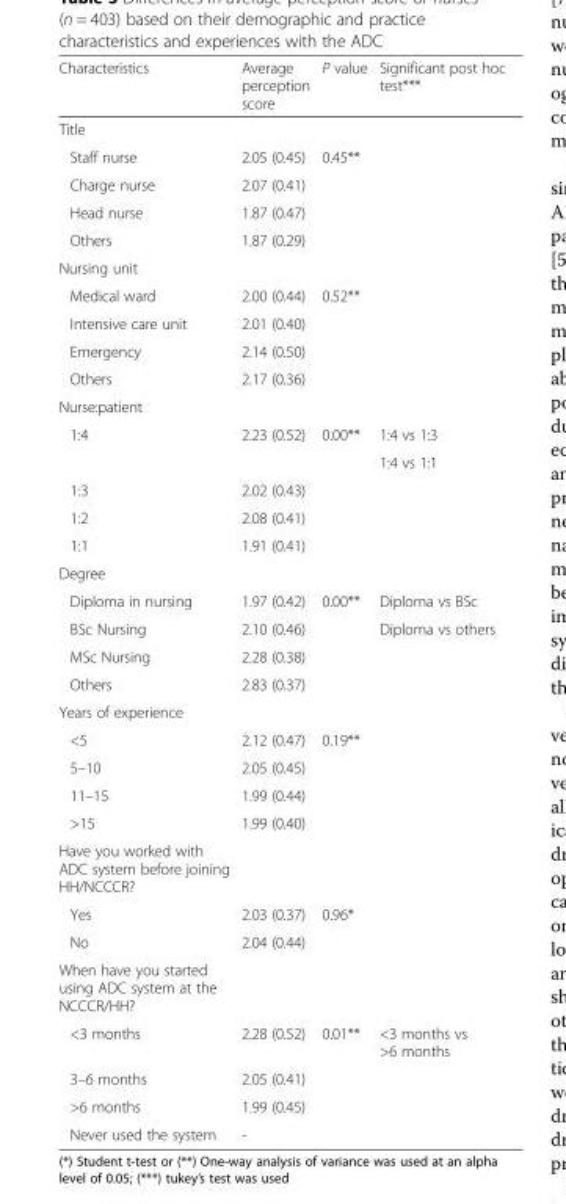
<table><thead><tr><td>Characteristics</td><td>Average perception score</td><td>P value</td><td>Significant post hoc test***</td></tr></thead><tbody><tr><td colspan="4">Title</td></tr><tr><td>Staff nurse</td><td>2.05 (0.45)</td><td>0.45**</td><td></td></tr><tr><td>Charge nurse</td><td>2.07 (0.41)</td><td></td><td></td></tr><tr><td>Head nurse</td><td>1.87 (0.47)</td><td></td><td></td></tr><tr><td>Others</td><td>1.87 (0.29)</td><td></td><td></td></tr><tr><td colspan="4">Nursing unit</td></tr><tr><td>Medical ward</td><td>2.00 (0.44)</td><td>0.52**</td><td></td></tr><tr><td>Intensive care unit</td><td>2.01 (0.40)</td><td></td><td></td></tr><tr><td>Emergency</td><td>2.14 (0.50)</td><td></td><td></td></tr><tr><td>Others</td><td>2.17 (0.36)</td><td></td><td></td></tr><tr><td colspan="4">Nurse:patient</td></tr><tr><td rowspan="2">1:4</td><td rowspan="2">2.23 (0.52)</td><td rowspan="2">0.00**</td><td>1:4 vs 1:3</td></tr><tr><td>1:4 vs 1:1</td></tr><tr><td>1:3</td><td>2.02 (0.43)</td><td></td><td></td></tr><tr><td>1:2</td><td>2.08 (0.41)</td><td></td><td></td></tr><tr><td>1:1</td><td>1.91 (0.41)</td><td></td><td></td></tr><tr><td colspan="4">Degree</td></tr><tr><td>Diploma in nursing</td><td>1.97 (0.42)</td><td>0.00**</td><td>Diploma vs BSc</td></tr><tr><td>BSc Nursing</td><td>2.10 (0.46)</td><td></td><td>Diploma vs others</td></tr><tr><td>MSc Nursing</td><td>2.28 (0.38)</td><td></td><td></td></tr><tr><td>Others</td><td>2.83 (0.37)</td><td></td><td></td></tr><tr><td colspan="4">Years of experience</td></tr><tr><td>&lt;5</td><td>2.12 (0.47)</td><td>0.19**</td><td></td></tr><tr><td>5–10</td><td>2.05 (0.45)</td><td></td><td></td></tr><tr><td>11–15</td><td>1.99 (0.44)</td><td></td><td></td></tr><tr><td>&gt;15</td><td>1.99 (0.40)</td><td></td><td></td></tr><tr><td colspan="4">Have you worked with ADC system before joining HH/NCCCR?</td></tr><tr><td>Yes</td><td>2.03 (0.37)</td><td>0.96*</td><td></td></tr><tr><td>No</td><td>2.04 (0.44)</td><td></td><td></td></tr><tr><td colspan="4">When have you started using ADC system at the NCCCR/HH?</td></tr><tr><td>&lt;3 months</td><td>2.28 (0.52)</td><td>0.01**</td><td>&lt;3 months vs &gt;6 months</td></tr><tr><td>3–6 months</td><td>2.05 (0.41)</td><td></td><td></td></tr><tr><td>&gt;6 months</td><td>1.99 (0.45)</td><td></td><td></td></tr><tr><td>Never used the system</td><td>-</td><td></td><td></td></tr></tbody></table>